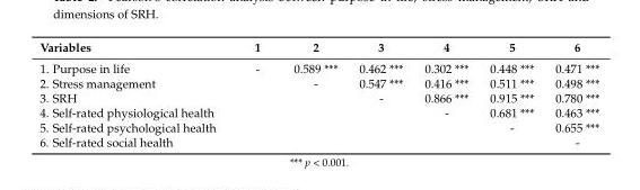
<table><thead><tr><td>Variables</td><td>1</td><td>2</td><td>3</td><td>4</td><td>5</td><td>6</td></tr></thead><tbody><tr><td>1. Purpose in life</td><td>-</td><td>0.589 ***</td><td>0.462 ***</td><td>0.302 ***</td><td>0.448 ***</td><td>0.471 ***</td></tr><tr><td>2. Stress management</td><td></td><td>-</td><td>0.547 ***</td><td>0.416 ***</td><td>0.511 ***</td><td>0.498 ***</td></tr><tr><td>3. SRH</td><td></td><td></td><td>-</td><td>0.866 ***</td><td>0.915 ***</td><td>0.780 ***</td></tr><tr><td>4. Self-rated physiological health</td><td></td><td></td><td></td><td>-</td><td>0.681 ***</td><td>0.463 ***</td></tr><tr><td>5. Self-rated psychological health</td><td></td><td></td><td></td><td></td><td>-</td><td>0.655 ***</td></tr><tr><td>6. Self-rated social health</td><td></td><td></td><td></td><td></td><td></td><td>-</td></tr></tbody></table>